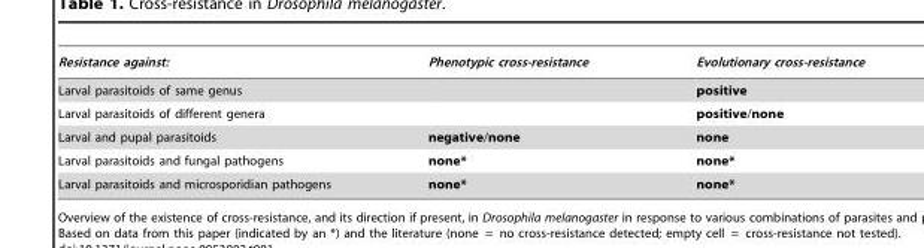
<table><thead><tr><td>Resistance against:</td><td>Phenotypic cross-resistance</td><td>Evolutionary cross-resistance</td></tr></thead><tbody><tr><td>Larval parasitoids of same genus</td><td></td><td>positive</td></tr><tr><td>Larval parasitoids of different genera</td><td></td><td>positive/none</td></tr><tr><td>Larval and pupal parasitoids</td><td>negative/none</td><td>none</td></tr><tr><td>Larval parasitoids and fungal pathogens</td><td>none*</td><td>none*</td></tr><tr><td>Larval parasitoids and microsporidian pathogens</td><td>none*</td><td>none*</td></tr></tbody></table>